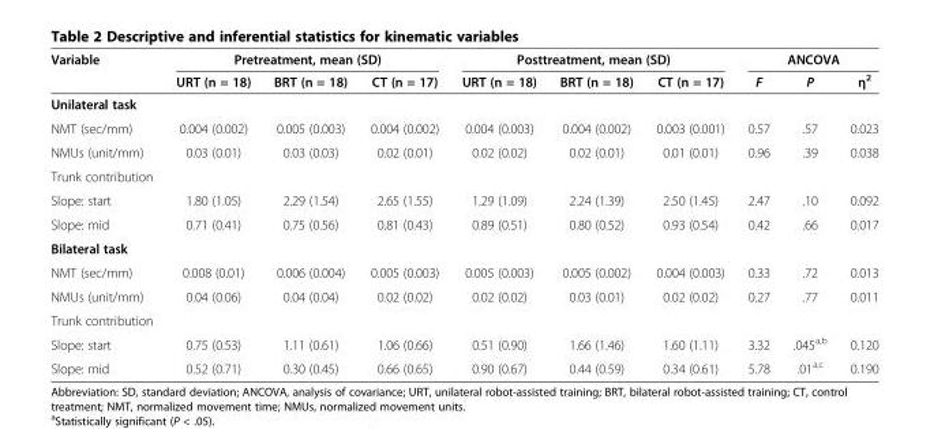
<table><thead><tr><td rowspan="2">Variable</td><td colspan="3">Pretreatment, mean (SD)</td><td colspan="3">Posttreatment, mean (SD)</td><td colspan="3">ANCOVA</td></tr><tr><td>URT (n = 18)</td><td>BRT (n = 18)</td><td>CT (n = 17)</td><td>URT (n = 18)</td><td>BRT (n = 18)</td><td>CT (n = 17)</td><td>F</td><td>P</td><td>η<sup>2</sup></td></tr></thead><tbody><tr><td colspan="10">Unilateral task</td></tr><tr><td>NMT (sec/mm)</td><td>0.004 (0.002)</td><td>0.005 (0.003)</td><td>0.004 (0.002)</td><td>0.004 (0.003)</td><td>0.004 (0.002)</td><td>0.003 (0.001)</td><td>0.57</td><td>.57</td><td>0.023</td></tr><tr><td>NMUs (unit/mm)</td><td>0.03 (0.01)</td><td>0.03 (0.03)</td><td>0.02 (0.01)</td><td>0.02 (0.02)</td><td>0.02 (0.01)</td><td>0.01 (0.01)</td><td>0.96</td><td>.39</td><td>0.038</td></tr><tr><td colspan="10">Trunk contribution</td></tr><tr><td>Slope: start</td><td>1.80 (1.05)</td><td>2.29 (1.54)</td><td>2.65 (1.55)</td><td>1.29 (1.09)</td><td>2.24 (1.39)</td><td>2.50 (1.45)</td><td>2.47</td><td>.10</td><td>0.092</td></tr><tr><td>Slope: mid</td><td>0.71 (0.41)</td><td>0.75 (0.56)</td><td>0.81 (0.43)</td><td>0.89 (0.51)</td><td>0.80 (0.52)</td><td>0.93 (0.54)</td><td>0.42</td><td>.66</td><td>0.017</td></tr><tr><td colspan="10">Bilateral task</td></tr><tr><td>NMT (sec/mm)</td><td>0.008 (0.01)</td><td>0.006 (0.004)</td><td>0.005 (0.003)</td><td>0.005 (0.003)</td><td>0.005 (0.002)</td><td>0.004 (0.003)</td><td>0.33</td><td>.72</td><td>0.013</td></tr><tr><td>NMUs (unit/mm)</td><td>0.04 (0.06)</td><td>0.04 (0.04)</td><td>0.02 (0.02)</td><td>0.02 (0.02)</td><td>0.03 (0.01)</td><td>0.02 (0.02)</td><td>0.27</td><td>.77</td><td>0.011</td></tr><tr><td colspan="10">Trunk contribution</td></tr><tr><td>Slope: start</td><td>0.75 (0.53)</td><td>1.11 (0.61)</td><td>1.06 (0.66)</td><td>0.51 (0.90)</td><td>1.66 (1.46)</td><td>1.60 (1.11)</td><td>3.32</td><td>.045<sup>a,b</sup></td><td>0.120</td></tr><tr><td>Slope: mid</td><td>0.52 (0.71)</td><td>0.30 (0.45)</td><td>0.66 (0.65)</td><td>0.90 (0.67)</td><td>0.44 (0.59)</td><td>0.34 (0.61)</td><td>5.78</td><td>.01<sup>a,c</sup></td><td>0.190</td></tr></tbody></table>